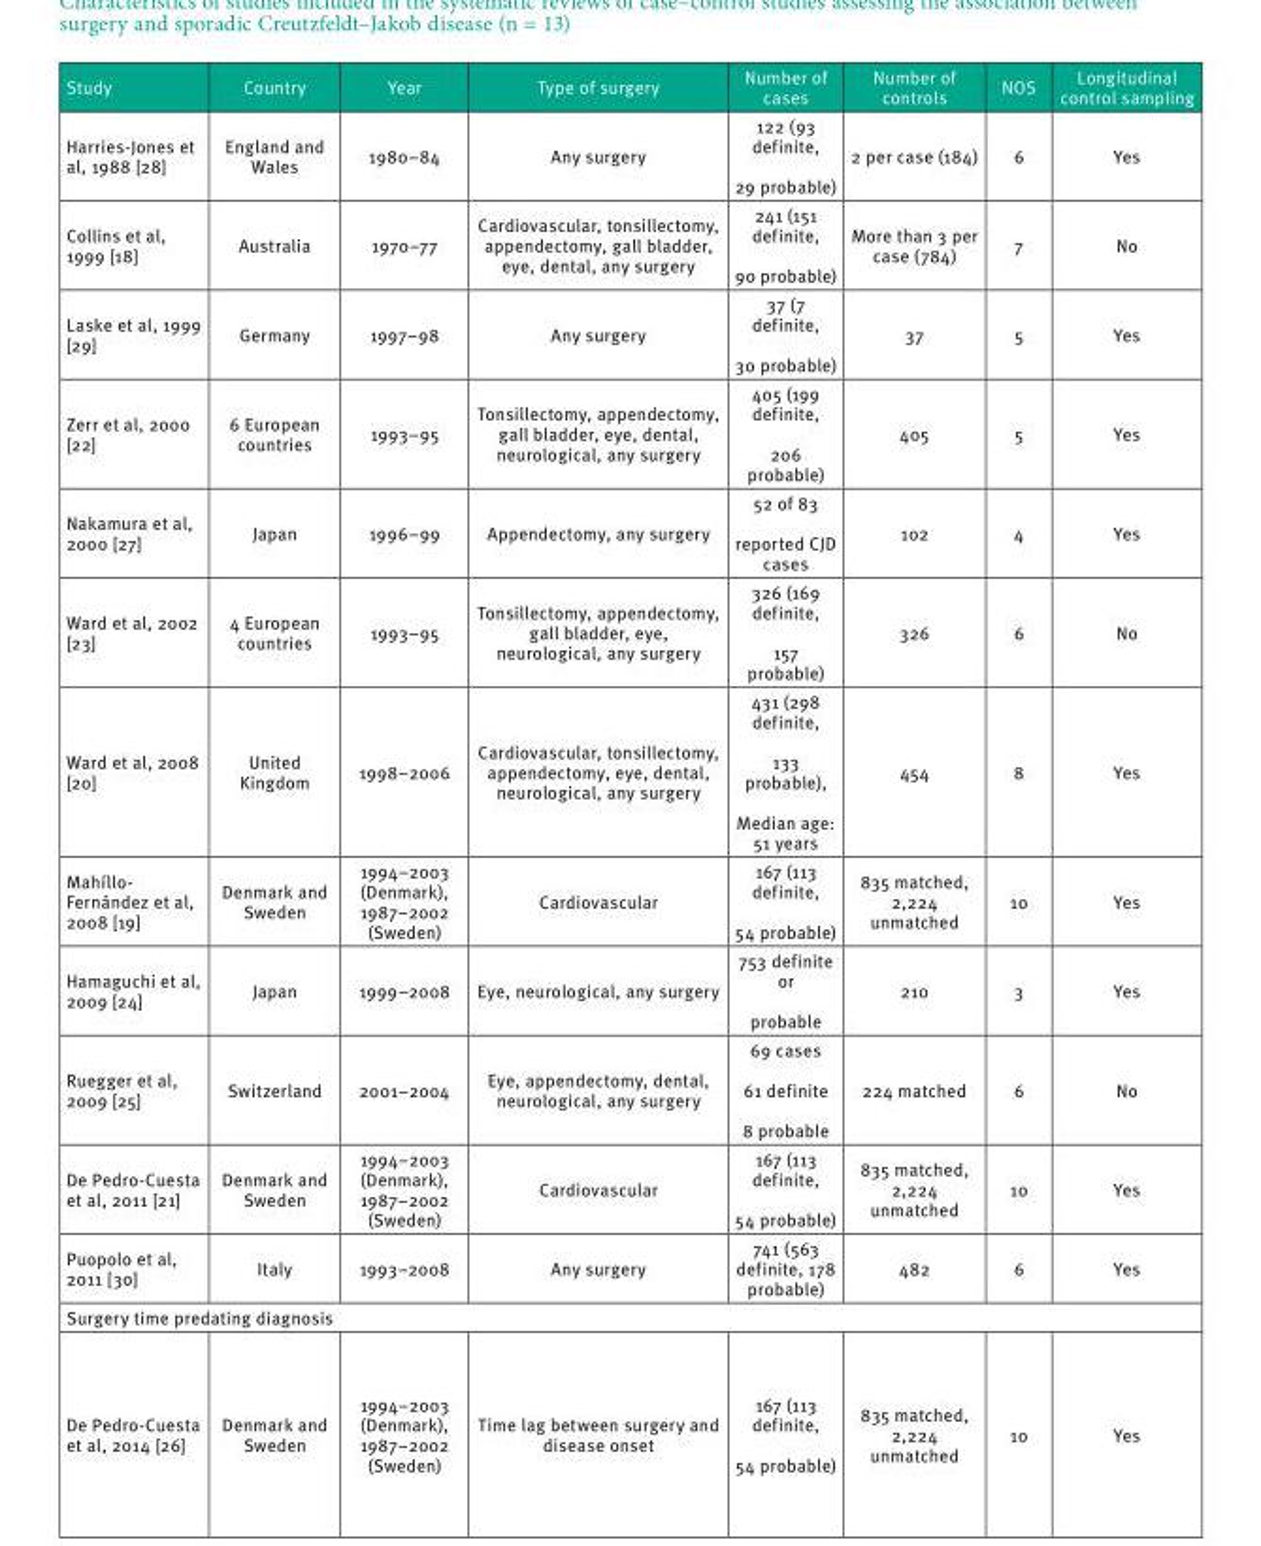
<table><thead><tr><td>Study</td><td>Country</td><td>Year</td><td>Type of surgery</td><td>Number of cases</td><td>Number of controls</td><td>NOS</td><td>Longitudinal control sampling</td></tr></thead><tbody><tr><td>Harries-Jones et al, 1988 [28]</td><td>England and Wales</td><td>1980–84</td><td>Any surgery</td><td>122 (93 definite, 29 probable)</td><td>2 per case (184)</td><td>6</td><td>Yes</td></tr><tr><td>Collins et al, 1999 [18]</td><td>Australia</td><td>1970–77</td><td>Cardiovascular, tonsillectomy, appendectomy, gall bladder, eye, dental, any surgery</td><td>241 (151 definite, 90 probable)</td><td>More than 3 per case (784)</td><td>7</td><td>No</td></tr><tr><td>Laske et al, 1999 [29]</td><td>Germany</td><td>1997–98</td><td>Any surgery</td><td>37 (7 definite, 30 probable)</td><td>37</td><td>5</td><td>Yes</td></tr><tr><td>Zerr et al, 2000 [22]</td><td>6 European countries</td><td>1993–95</td><td>Tonsillectomy, appendectomy, gall bladder, eye, dental, neurological, any surgery</td><td>405 (199 definite, 206 probable)</td><td>405</td><td>5</td><td>Yes</td></tr><tr><td>Nakamura et al, 2000 [27]</td><td>Japan</td><td>1996–99</td><td>Appendectomy, any surgery</td><td>52 of 83 reported CJD cases</td><td>102</td><td>4</td><td>Yes</td></tr><tr><td>Ward et al, 2002 [23]</td><td>4 European countries</td><td>1993–95</td><td>Tonsillectomy, appendectomy, gall bladder, eye, neurological, any surgery</td><td>326 (169 definite, 157 probable)</td><td>326</td><td>6</td><td>No</td></tr><tr><td>Ward et al, 2008 [20]</td><td>United Kingdom</td><td>1998–2006</td><td>Cardiovascular, tonsillectomy, appendectomy, eye, dental, neurological, any surgery</td><td>431 (298 definite, 133 probable), Median age: 51 years</td><td>454</td><td>8</td><td>Yes</td></tr><tr><td>Mahíllo- Fernández et al, 2008 [19]</td><td>Denmark and Sweden</td><td>1994–2003 (Denmark), 1987–2002 (Sweden)</td><td>Cardiovascular</td><td>167 (113 definite, 54 probable)</td><td>835 matched, 2,224 unmatched</td><td>10</td><td>Yes</td></tr><tr><td>Hamaguchi et al, 2009 [24]</td><td>Japan</td><td>1999–2008</td><td>Eye, neurological, any surgery</td><td>753 definite or probable</td><td>210</td><td>3</td><td>Yes</td></tr><tr><td>Ruegger et al, 2009 [25]</td><td>Switzerland</td><td>2001–2004</td><td>Eye, appendectomy, dental, neurological, any surgery</td><td>69 cases 61 definite 8 probable</td><td>224 matched</td><td>6</td><td>No</td></tr><tr><td>De Pedro-Cuesta et al, 2011 [21]</td><td>Denmark and Sweden</td><td>1994–2003 (Denmark), 1987–2002 (Sweden)</td><td>Cardiovascular</td><td>167 (113 definite, 54 probable)</td><td>835 matched, 2,224 unmatched</td><td>10</td><td>Yes</td></tr><tr><td>Puopolo et al, 2011 [30]</td><td>Italy</td><td>1993–2008</td><td>Any surgery</td><td>741 (563 definite, 178 probable)</td><td>482</td><td>6</td><td>Yes</td></tr><tr><td colspan="8">Surgery time predating diagnosis</td></tr><tr><td>De Pedro-Cuesta et al, 2014 [26]</td><td>Denmark and Sweden</td><td>1994–2003 (Denmark), 1987–2002 (Sweden)</td><td>Time lag between surgery and disease onset</td><td>167 (113 definite, 54 probable)</td><td>835 matched, 2,224 unmatched</td><td>10</td><td>Yes</td></tr></tbody></table>